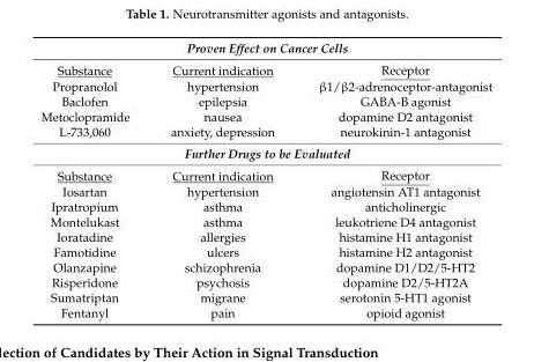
<table><thead><tr><td colspan="3">Proven Effect on Cancer Cells</td></tr><tr><td>Substance</td><td>Current indication</td><td>Receptor</td></tr></thead><tbody><tr><td>Propranolol</td><td>hypertension</td><td>β1/β2-adrenoceptor-antagonist</td></tr><tr><td>Baclofen</td><td>epilepsia</td><td>GABA-B agonist</td></tr><tr><td>Metoclopramide</td><td>nausea</td><td>dopamine D2 antagonist</td></tr><tr><td>L-733,060</td><td>anxiety, depression</td><td>neurokinin-1 antagonist</td></tr><tr><td colspan="3">Further Drugs to be Evaluated</td></tr><tr><td>Substance</td><td>Current indication</td><td>Receptor</td></tr><tr><td>Iosartan</td><td>hypertension</td><td>angiotensin AT1 antagonist</td></tr><tr><td>Ipratropium</td><td>asthma</td><td>anticholinergic</td></tr><tr><td>Montelukast</td><td>asthma</td><td>leukotriene D4 antagonist</td></tr><tr><td>Ioratadine</td><td>allergies</td><td>histamine H1 antagonist</td></tr><tr><td>Famotidine</td><td>ulcers</td><td>histamine H2 antagonist</td></tr><tr><td>Olanzapine</td><td>schizophrenia</td><td>dopamine D1/D2/5-HT2</td></tr><tr><td>Risperidone</td><td>psychosis</td><td>dopamine D2/5-HT2A</td></tr><tr><td>Sumatriptan</td><td>migrane</td><td>serotonin 5-HT1 agonist</td></tr><tr><td>Fentanyl</td><td>pain</td><td>opioid agonist</td></tr></tbody></table>